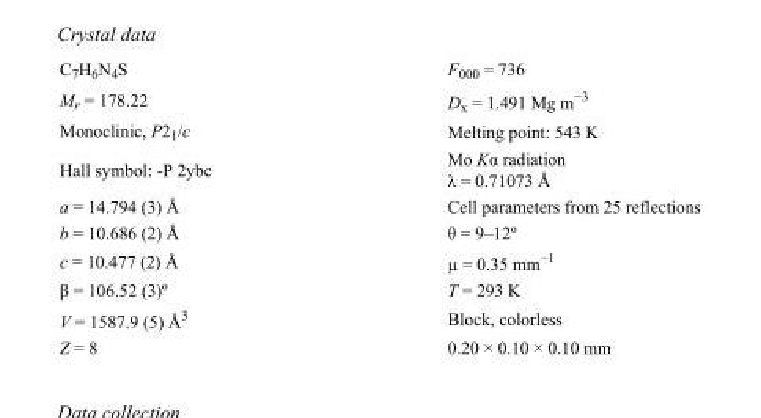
<table><tbody><tr><td>C<sub>7</sub>H<sub>6</sub>N<sub>4</sub>S</td><td>F000 = 736</td></tr><tr><td>M<sub>r</sub> = 178.22</td><td>D<sub>x</sub> = 1.491 Mg m<sup>−3</sup></td></tr><tr><td>Monoclinic, P2<sub>1</sub>/c</td><td>Melting point: 543 K</td></tr><tr><td>Hall symbol: -P 2ybc</td><td>Mo Kα radiation λ = 0.71073 Å</td></tr><tr><td>a = 14.794 (3) Å</td><td>Cell parameters from 25 reflections</td></tr><tr><td>b = 10.686 (2) Å</td><td>θ = 9–12º</td></tr><tr><td>c = 10.477 (2) Å</td><td>µ = 0.35 mm<sup>−1</sup></td></tr><tr><td>β = 106.52 (3)º</td><td>T = 293 K</td></tr><tr><td>V = 1587.9 (5) Å<sup>3</sup></td><td>Block, colorless</td></tr><tr><td>Z = 8</td><td>0.20 × 0.10 × 0.10 mm</td></tr></tbody></table>